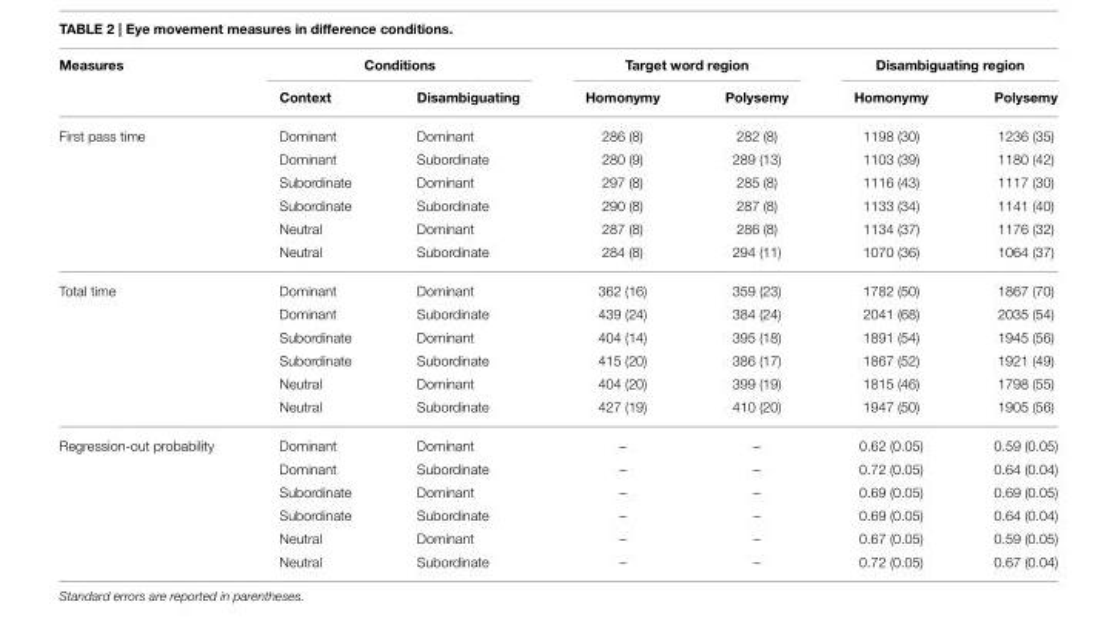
<table><thead><tr><td rowspan="2">Measures</td><td colspan="2">Conditions</td><td colspan="2">Target word region</td><td colspan="2">Disambiguating region</td></tr><tr><td>Context</td><td>Disambiguating</td><td>Homonymy</td><td>Polysemy</td><td>Homonymy</td><td>Polysemy</td></tr></thead><tbody><tr><td rowspan="6">First pass time</td><td>Dominant</td><td>Dominant</td><td>286 (8)</td><td>282 (8)</td><td>1198 (30)</td><td>1236 (35)</td></tr><tr><td>Dominant</td><td>Subordinate</td><td>280 (9)</td><td>289 (13)</td><td>1103 (39)</td><td>1180 (42)</td></tr><tr><td>Subordinate</td><td>Dominant</td><td>297 (8)</td><td>285 (8)</td><td>1116 (43)</td><td>1117 (30)</td></tr><tr><td>Subordinate</td><td>Subordinate</td><td>290 (8)</td><td>287 (8)</td><td>1133 (34)</td><td>1141 (40)</td></tr><tr><td>Neutral</td><td>Dominant</td><td>287 (8)</td><td>286 (8)</td><td>1134 (37)</td><td>1176 (32)</td></tr><tr><td>Neutral</td><td>Subordinate</td><td>284 (8)</td><td>294 (11)</td><td>1070 (36)</td><td>1064 (37)</td></tr><tr><td rowspan="6">Total time</td><td>Dominant</td><td>Dominant</td><td>362 (16)</td><td>359 (23)</td><td>1782 (50)</td><td>1867 (70)</td></tr><tr><td>Dominant</td><td>Subordinate</td><td>439 (24)</td><td>384 (24)</td><td>2041 (68)</td><td>2035 (54)</td></tr><tr><td>Subordinate</td><td>Dominant</td><td>404 (14)</td><td>395 (18)</td><td>1891 (54)</td><td>1945 (56)</td></tr><tr><td>Subordinate</td><td>Subordinate</td><td>415 (20)</td><td>386 (17)</td><td>1867 (52)</td><td>1921 (49)</td></tr><tr><td>Neutral</td><td>Dominant</td><td>404 (20)</td><td>399 (19)</td><td>1815 (46)</td><td>1798 (55)</td></tr><tr><td>Neutral</td><td>Subordinate</td><td>427 (19)</td><td>410 (20)</td><td>1947 (50)</td><td>1905 (56)</td></tr><tr><td rowspan="6">Regression-out probability</td><td>Dominant</td><td>Dominant</td><td>–</td><td>–</td><td>0.62 (0.05)</td><td>0.59 (0.05)</td></tr><tr><td>Dominant</td><td>Subordinate</td><td>–</td><td>–</td><td>0.72 (0.05)</td><td>0.64 (0.04)</td></tr><tr><td>Subordinate</td><td>Dominant</td><td>–</td><td>–</td><td>0.69 (0.05)</td><td>0.69 (0.05)</td></tr><tr><td>Subordinate</td><td>Subordinate</td><td>–</td><td>–</td><td>0.69 (0.05)</td><td>0.64 (0.04)</td></tr><tr><td>Neutral</td><td>Dominant</td><td>–</td><td>–</td><td>0.67 (0.05)</td><td>0.59 (0.05)</td></tr><tr><td>Neutral</td><td>Subordinate</td><td>–</td><td>–</td><td>0.72 (0.05)</td><td>0.67 (0.04)</td></tr></tbody></table>